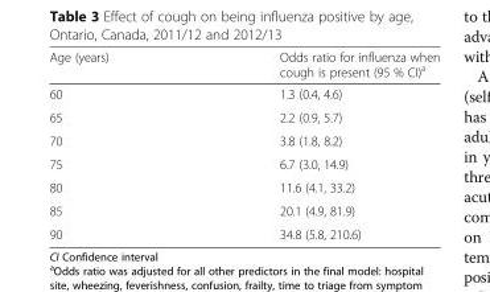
<table><thead><tr><td>Age (years)</td><td>Odds ratio for influenza when cough is present (95 % CI)<sup>a</sup></td></tr></thead><tbody><tr><td>60</td><td>1.3 (0.4, 4.6)</td></tr><tr><td>65</td><td>2.2 (0.9, 5.7)</td></tr><tr><td>70</td><td>3.8 (1.8, 8.2)</td></tr><tr><td>75</td><td>6.7 (3.0, 14.9)</td></tr><tr><td>80</td><td>11.6 (4.1, 33.2)</td></tr><tr><td>85</td><td>20.1 (4.9, 81.9)</td></tr><tr><td>90</td><td>34.8 (5.8, 210.6)</td></tr></tbody></table>